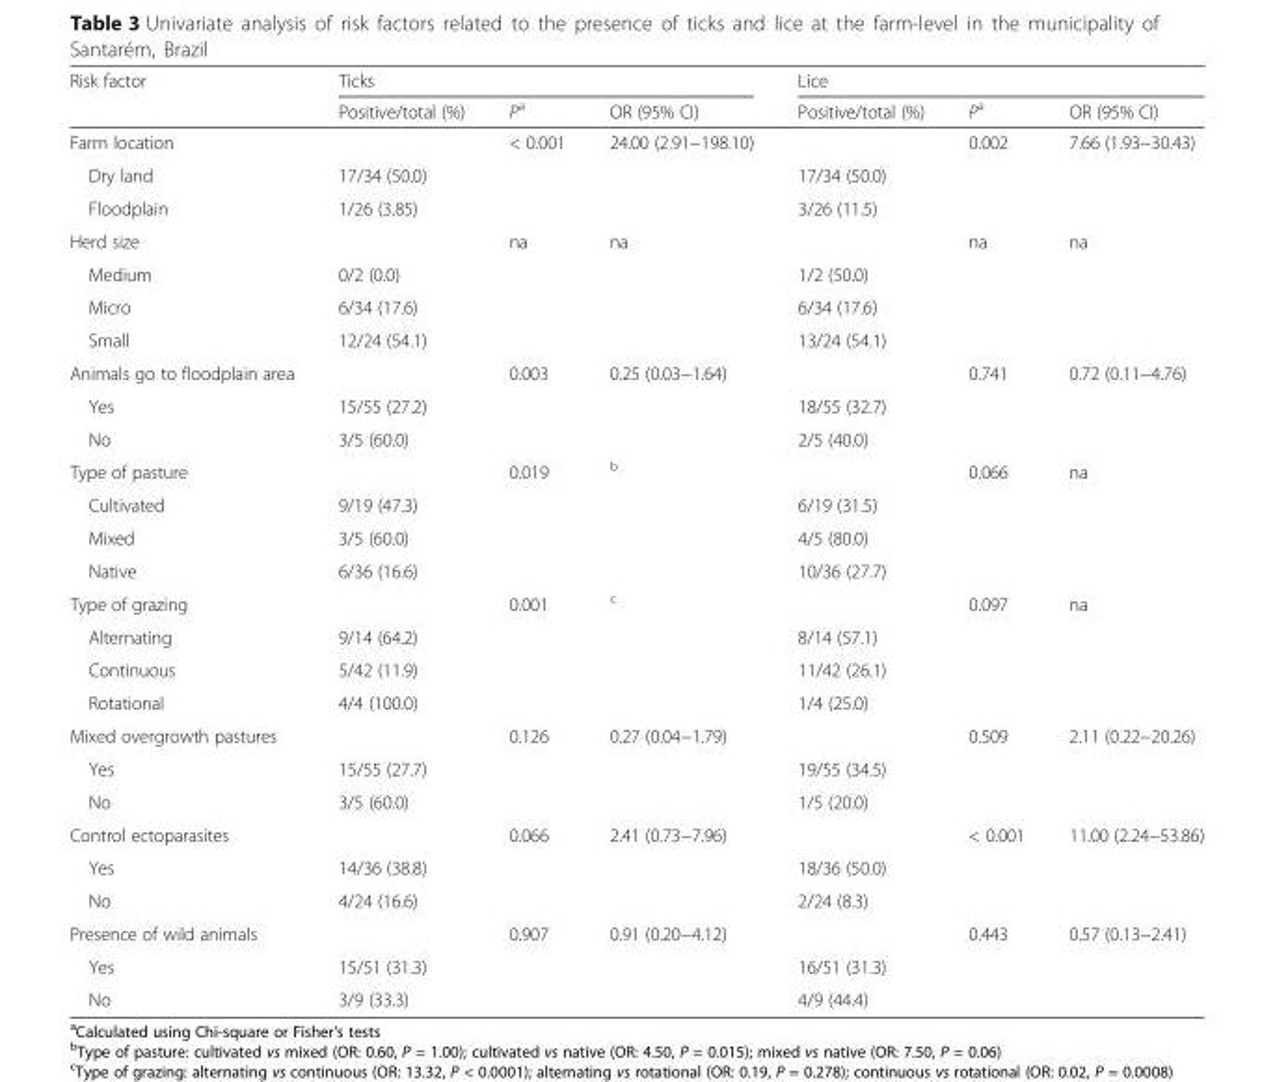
<table><thead><tr><td rowspan="2">Risk factor</td><td colspan="3">Ticks</td><td colspan="3">Lice</td></tr><tr><td>Positive/total (%)</td><td>P<sup>a</sup></td><td>OR (95% CI)</td><td>Positive/total (%)</td><td>P<sup>a</sup></td><td>OR (95% CI)</td></tr></thead><tbody><tr><td>Farm location</td><td></td><td>&lt; 0.001</td><td>24.00 (2.91−198.10)</td><td></td><td>0.002</td><td>7.66 (1.93−30.43)</td></tr><tr><td>Dry land</td><td>17/34 (50.0)</td><td></td><td></td><td>17/34 (50.0)</td><td></td><td></td></tr><tr><td>Floodplain</td><td>1/26 (3.85)</td><td></td><td></td><td>3/26 (11.5)</td><td></td><td></td></tr><tr><td>Herd size</td><td></td><td>na</td><td>na</td><td></td><td>na</td><td>na</td></tr><tr><td>Medium</td><td>0/2 (0.0)</td><td></td><td></td><td>1/2 (50.0)</td><td></td><td></td></tr><tr><td>Micro</td><td>6/34 (17.6)</td><td></td><td></td><td>6/34 (17.6)</td><td></td><td></td></tr><tr><td>Small</td><td>12/24 (54.1)</td><td></td><td></td><td>13/24 (54.1)</td><td></td><td></td></tr><tr><td>Animals go to floodplain area</td><td></td><td>0.003</td><td>0.25 (0.03−1.64)</td><td></td><td>0.741</td><td>0.72 (0.11−4.76)</td></tr><tr><td>Yes</td><td>15/55 (27.2)</td><td></td><td></td><td>18/55 (32.7)</td><td></td><td></td></tr><tr><td>No</td><td>3/5 (60.0)</td><td></td><td></td><td>2/5 (40.0)</td><td></td><td></td></tr><tr><td>Type of pasture</td><td></td><td>0.019</td><td><sup>b</sup></td><td></td><td>0.066</td><td>na</td></tr><tr><td>Cultivated</td><td>9/19 (47.3)</td><td></td><td></td><td>6/19 (31.5)</td><td></td><td></td></tr><tr><td>Mixed</td><td>3/5 (60.0)</td><td></td><td></td><td>4/5 (80.0)</td><td></td><td></td></tr><tr><td>Native</td><td>6/36 (16.6)</td><td></td><td></td><td>10/36 (27.7)</td><td></td><td></td></tr><tr><td>Type of grazing</td><td></td><td>0.001</td><td><sup>c</sup></td><td></td><td>0.097</td><td>na</td></tr><tr><td>Alternating</td><td>9/14 (64.2)</td><td></td><td></td><td>8/14 (57.1)</td><td></td><td></td></tr><tr><td>Continuous</td><td>5/42 (11.9)</td><td></td><td></td><td>11/42 (26.1)</td><td></td><td></td></tr><tr><td>Rotational</td><td>4/4 (100.0)</td><td></td><td></td><td>1/4 (25.0)</td><td></td><td></td></tr><tr><td>Mixed overgrowth pastures</td><td></td><td>0.126</td><td>0.27 (0.04−1.79)</td><td></td><td>0.509</td><td>2.11 (0.22−20.26)</td></tr><tr><td>Yes</td><td>15/55 (27.7)</td><td></td><td></td><td>19/55 (34.5)</td><td></td><td></td></tr><tr><td>No</td><td>3/5 (60.0)</td><td></td><td></td><td>1/5 (20.0)</td><td></td><td></td></tr><tr><td>Control ectoparasites</td><td></td><td>0.066</td><td>2.41 (0.73−7.96)</td><td></td><td>&lt; 0.001</td><td>11.00 (2.24−53.86)</td></tr><tr><td>Yes</td><td>14/36 (38.8)</td><td></td><td></td><td>18/36 (50.0)</td><td></td><td></td></tr><tr><td>No</td><td>4/24 (16.6)</td><td></td><td></td><td>2/24 (8.3)</td><td></td><td></td></tr><tr><td>Presence of wild animals</td><td></td><td>0.907</td><td>0.91 (0.20−4.12)</td><td></td><td>0.443</td><td>0.57 (0.13−2.41)</td></tr><tr><td>Yes</td><td>15/51 (31.3)</td><td></td><td></td><td>16/51 (31.3)</td><td></td><td></td></tr><tr><td>No</td><td>3/9 (33.3)</td><td></td><td></td><td>4/9 (44.4)</td><td></td><td></td></tr></tbody></table>